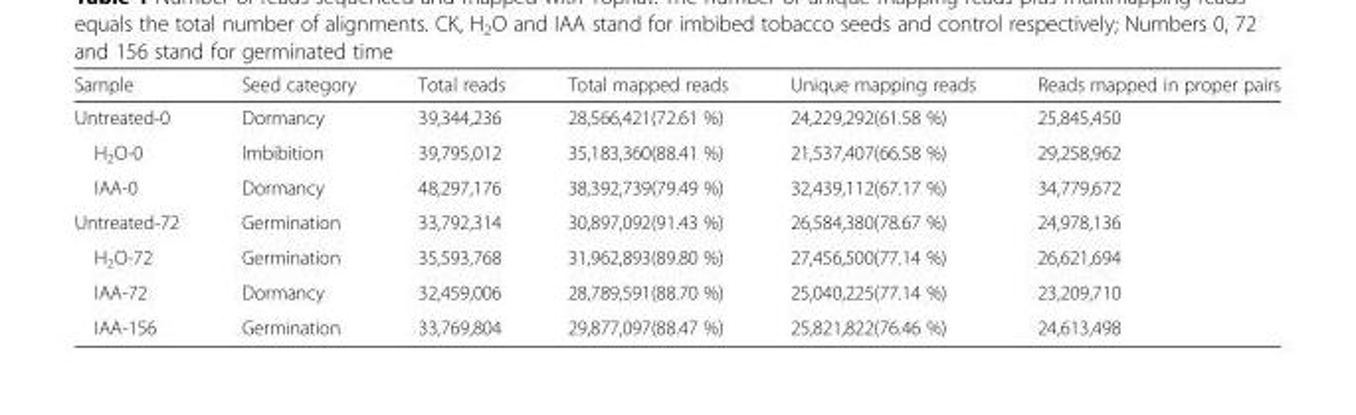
<table><thead><tr><td>Sample</td><td>Seed category</td><td>Total reads</td><td>Total mapped reads</td><td>Unique mapping reads</td><td>Reads mapped in proper pairs</td></tr></thead><tbody><tr><td>Untreated-0</td><td>Dormancy</td><td>39,344,236</td><td>28,566,421(72.61 %)</td><td>24,229,292(61.58 %)</td><td>25,845,450</td></tr><tr><td>H<sub>2</sub>O-0</td><td>Imbibition</td><td>39,795,012</td><td>35,183,360(88.41 %)</td><td>21,537,407(66.58 %)</td><td>29,258,962</td></tr><tr><td>IAA-0</td><td>Dormancy</td><td>48,297,176</td><td>38,392,739(79.49 %)</td><td>32,439,112(67.17 %)</td><td>34,779,672</td></tr><tr><td>Untreated-72</td><td>Germination</td><td>33,792,314</td><td>30,897,092(91.43 %)</td><td>26,584,380(78.67 %)</td><td>24,978,136</td></tr><tr><td>H<sub>2</sub>O-72</td><td>Germination</td><td>35,593,768</td><td>31,962,893(89.80 %)</td><td>27,456,500(77.14 %)</td><td>26,621,694</td></tr><tr><td>IAA-72</td><td>Dormancy</td><td>32,459,006</td><td>28,789,591(88.70 %)</td><td>25,040,225(77.14 %)</td><td>23,209,710</td></tr><tr><td>IAA-156</td><td>Germination</td><td>33,769,804</td><td>29,877,097(88.47 %)</td><td>25,821,822(76.46 %)</td><td>24,613,498</td></tr></tbody></table>